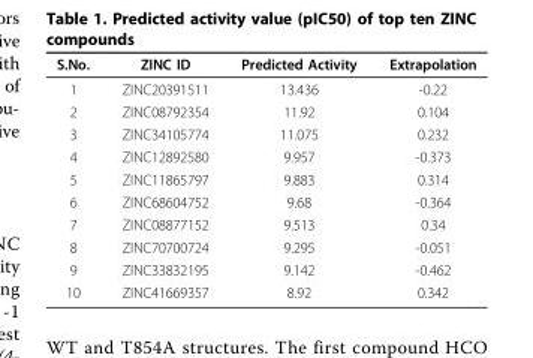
<table><thead><tr><td>S.No.</td><td>ZINC ID</td><td>Predicted Activity</td><td>Extrapolation</td></tr></thead><tbody><tr><td>1</td><td>ZINC20391511</td><td>13.436</td><td>-0.22</td></tr><tr><td>2</td><td>ZINC08792354</td><td>11.92</td><td>0.104</td></tr><tr><td>3</td><td>ZINC34105774</td><td>11.075</td><td>0.232</td></tr><tr><td>4</td><td>ZINC12892580</td><td>9.957</td><td>-0.373</td></tr><tr><td>5</td><td>ZINC11865797</td><td>9.883</td><td>0.314</td></tr><tr><td>6</td><td>ZINC68604752</td><td>9.68</td><td>-0.364</td></tr><tr><td>7</td><td>ZINC08877152</td><td>9.513</td><td>0.34</td></tr><tr><td>8</td><td>ZINC70700724</td><td>9.295</td><td>-0.051</td></tr><tr><td>9</td><td>ZINC33832195</td><td>9.142</td><td>-0.462</td></tr><tr><td>10</td><td>ZINC41669357</td><td>8.92</td><td>0.342</td></tr></tbody></table>